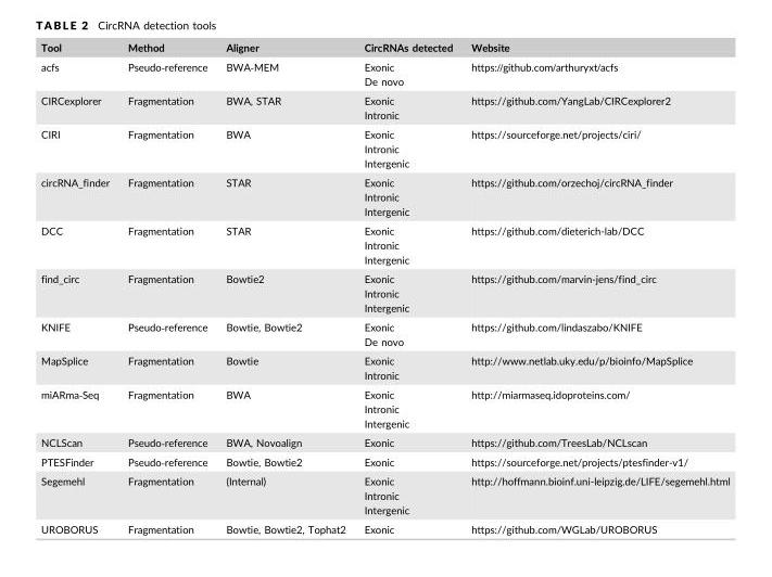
<table><thead><tr><td>Tool</td><td>Method</td><td>Aligner</td><td>CircRNAs detected</td><td>Website</td></tr></thead><tbody><tr><td>acfs</td><td>Pseudo‐reference</td><td>BWA‐MEM</td><td>Exonic De novo</td><td>https://github.com/arthuryxt/acfs</td></tr><tr><td>CIRCexplorer</td><td>Fragmentation</td><td>BWA, STAR</td><td>Exonic Intronic</td><td>https://github.com/YangLab/CIRCexplorer2</td></tr><tr><td>CIRI</td><td>Fragmentation</td><td>BWA</td><td>Exonic Intronic Intergenic</td><td>https://sourceforge.net/projects/ciri/</td></tr><tr><td>circRNA_finder</td><td>Fragmentation</td><td>STAR</td><td>Exonic Intronic Intergenic</td><td>https://github.com/orzechoj/circRNA_finder</td></tr><tr><td>DCC</td><td>Fragmentation</td><td>STAR</td><td>Exonic Intronic Intergenic</td><td>https://github.com/dieterich-lab/DCC</td></tr><tr><td>find_circ</td><td>Fragmentation</td><td>Bowtie2</td><td>Exonic Intronic Intergenic</td><td>https://github.com/marvin-jens/find_circ</td></tr><tr><td>KNIFE</td><td>Pseudo‐reference</td><td>Bowtie, Bowtie2</td><td>Exonic De novo</td><td>https://github.com/lindaszabo/KNIFE</td></tr><tr><td>MapSplice</td><td>Fragmentation</td><td>Bowtie</td><td>Exonic Intronic</td><td>http://www.netlab.uky.edu/p/bioinfo/MapSplice</td></tr><tr><td>miARma‐Seq</td><td>Fragmentation</td><td>BWA</td><td>Exonic Intronic Intergenic</td><td>http://miarmaseq.idoproteins.com/</td></tr><tr><td>NCLScan</td><td>Pseudo‐reference</td><td>BWA, Novoalign</td><td>Exonic</td><td>https://github.com/TreesLab/NCLscan</td></tr><tr><td>PTESFinder</td><td>Pseudo‐reference</td><td>Bowtie, Bowtie2</td><td>Exonic</td><td>https://sourceforge.net/projects/ptesfinder-v1/</td></tr><tr><td>Segemehl</td><td>Fragmentation</td><td>(Internal)</td><td>Exonic Intronic Intergenic</td><td>http://hoffmann.bioinf.uni-leipzig.de/LIFE/segemehl.html</td></tr><tr><td>UROBORUS</td><td>Fragmentation</td><td>Bowtie, Bowtie2, Tophat2</td><td>Exonic</td><td>https://github.com/WGLab/UROBORUS</td></tr></tbody></table>